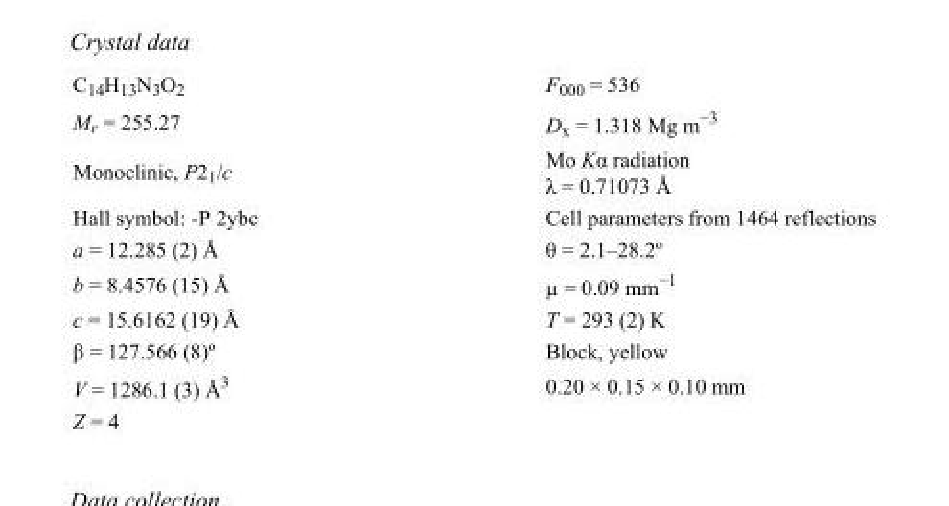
<table><tbody><tr><td>C<sub>14</sub>H<sub>13</sub>N<sub>3</sub>O<sub>2</sub></td><td>F<sub>000</sub> = 536</td></tr><tr><td>M<sub>r</sub> = 255.27</td><td>D<sub>x</sub> = 1.318 Mg m<sup>−3</sup></td></tr><tr><td>Monoclinic, P2<sub>1</sub>/c</td><td>Mo Kα radiation λ = 0.71073 Å</td></tr><tr><td>Hall symbol: -P 2ybc</td><td>Cell parameters from 1464 reflections</td></tr><tr><td>a = 12.285 (2) Å</td><td>θ = 2.1–28.2º</td></tr><tr><td>b = 8.4576 (15) Å</td><td>µ = 0.09 mm<sup>−1</sup></td></tr><tr><td>c = 15.6162 (19) Å</td><td>T = 293 (2) K</td></tr><tr><td>β = 127.566 (8)º</td><td>Block, yellow</td></tr><tr><td>V = 1286.1 (3) Å<sup>3</sup></td><td>0.20 × 0.15 × 0.10 mm</td></tr><tr><td>Z = 4</td><td></td></tr></tbody></table>